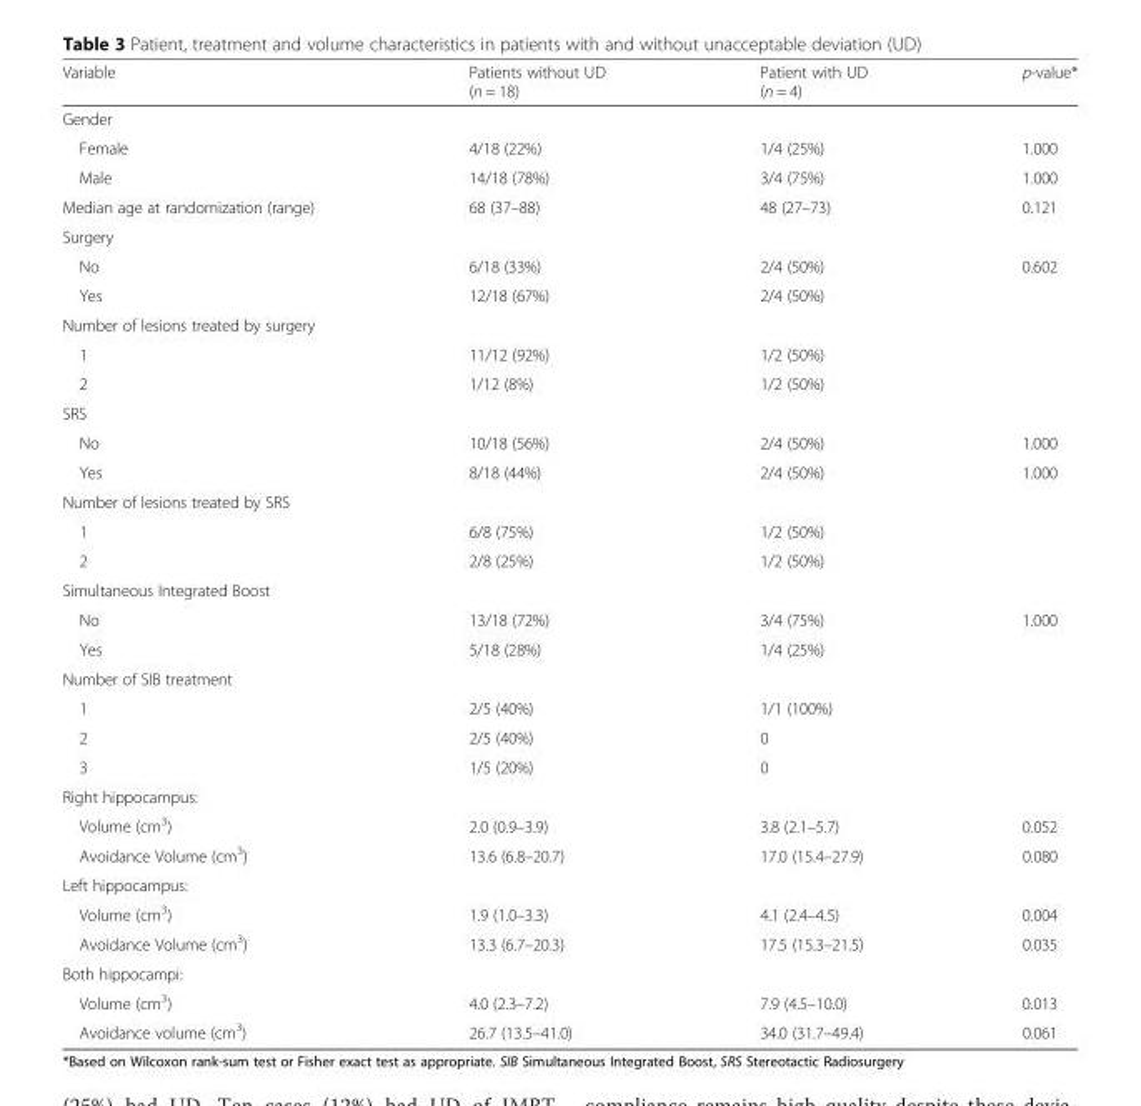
<table><thead><tr><td>Variable</td><td>Patients without UD (n = 18)</td><td>Patient with UD (n = 4)</td><td>p-value*</td></tr></thead><tbody><tr><td colspan="4">Gender</td></tr><tr><td>Female</td><td>4/18 (22%)</td><td>1/4 (25%)</td><td>1.000</td></tr><tr><td>Male</td><td>14/18 (78%)</td><td>3/4 (75%)</td><td>1.000</td></tr><tr><td>Median age at randomization (range)</td><td>68 (37–88)</td><td>48 (27–73)</td><td>0.121</td></tr><tr><td colspan="4">Surgery</td></tr><tr><td>No</td><td>6/18 (33%)</td><td>2/4 (50%)</td><td>0.602</td></tr><tr><td>Yes</td><td>12/18 (67%)</td><td>2/4 (50%)</td><td></td></tr><tr><td colspan="4">Number of lesions treated by surgery</td></tr><tr><td>1</td><td>11/12 (92%)</td><td>1/2 (50%)</td><td rowspan="2"></td></tr><tr><td>2</td><td>1/12 (8%)</td><td>1/2 (50%)</td></tr><tr><td colspan="4">SRS</td></tr><tr><td>No</td><td>10/18 (56%)</td><td>2/4 (50%)</td><td>1.000</td></tr><tr><td>Yes</td><td>8/18 (44%)</td><td>2/4 (50%)</td><td>1.000</td></tr><tr><td colspan="4">Number of lesions treated by SRS</td></tr><tr><td>1</td><td>6/8 (75%)</td><td>1/2 (50%)</td><td rowspan="2"></td></tr><tr><td>2</td><td>2/8 (25%)</td><td>1/2 (50%)</td></tr><tr><td colspan="4">Simultaneous Integrated Boost</td></tr><tr><td>No</td><td>13/18 (72%)</td><td>3/4 (75%)</td><td>1.000</td></tr><tr><td>Yes</td><td>5/18 (28%)</td><td>1/4 (25%)</td><td></td></tr><tr><td colspan="4">Number of SIB treatment</td></tr><tr><td>1</td><td>2/5 (40%)</td><td>1/1 (100%)</td><td rowspan="2"></td></tr><tr><td>2</td><td>2/5 (40%)</td><td>0</td></tr><tr><td>3</td><td>1/5 (20%)</td><td>0</td><td></td></tr><tr><td colspan="4">Right hippocampus:</td></tr><tr><td>Volume (cm<sup>3</sup>)</td><td>2.0 (0.9–3.9)</td><td>3.8 (2.1–5.7)</td><td>0.052</td></tr><tr><td>Avoidance Volume (cm<sup>3</sup>)</td><td>13.6 (6.8–20.7)</td><td>17.0 (15.4–27.9)</td><td>0.080</td></tr><tr><td colspan="4">Left hippocampus:</td></tr><tr><td>Volume (cm<sup>3</sup>)</td><td>1.9 (1.0–3.3)</td><td>4.1 (2.4–4.5)</td><td>0.004</td></tr><tr><td>Avoidance Volume (cm<sup>3</sup>)</td><td>13.3 (6.7–20.3)</td><td>17.5 (15.3–21.5)</td><td>0.035</td></tr><tr><td colspan="4">Both hippocampi:</td></tr><tr><td>Volume (cm<sup>3</sup>)</td><td>4.0 (2.3–7.2)</td><td>7.9 (4.5–10.0)</td><td>0.013</td></tr><tr><td>Avoidance volume (cm<sup>3</sup>)</td><td>26.7 (13.5–41.0)</td><td>34.0 (31.7–49.4)</td><td>0.061</td></tr></tbody></table>